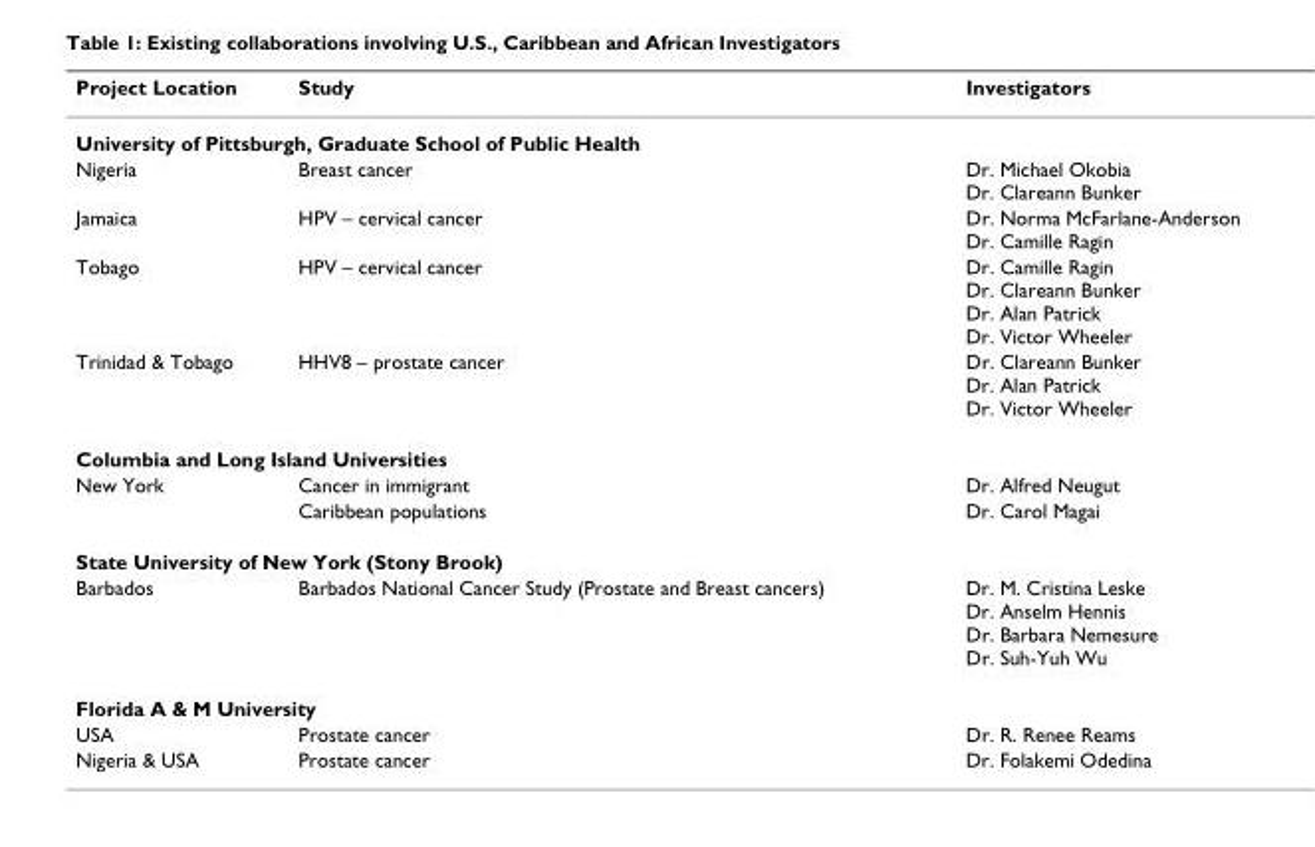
<table><thead><tr><td>Project Location</td><td>Study</td><td>Investigators</td></tr></thead><tbody><tr><td colspan="3">University of Pittsburgh, Graduate School of Public Health</td></tr><tr><td>Nigeria</td><td>Breast cancer</td><td>Dr. Michael Okobia Dr. Clareann Bunker</td></tr><tr><td>Jamaica</td><td>HPV – cervical cancer</td><td>Dr. Norma McFarlane-Anderson Dr. Camille Ragin</td></tr><tr><td>Tobago</td><td>HPV – cervical cancer</td><td>Dr. Camille Ragin Dr. Clareann Bunker Dr. Alan Patrick Dr. Victor Wheeler</td></tr><tr><td>Trinidad &amp; Tobago</td><td>HHV8 – prostate cancer</td><td>Dr. Clareann Bunker Dr. Alan Patrick Dr. Victor Wheeler</td></tr><tr><td colspan="3">Columbia and Long Island Universities</td></tr><tr><td rowspan="2">New York</td><td>Cancer in immigrant</td><td>Dr. Alfred Neugut</td></tr><tr><td>Caribbean populations</td><td>Dr. Carol Magai</td></tr><tr><td colspan="3">State University of New York (Stony Brook)</td></tr><tr><td>Barbados</td><td>Barbados National Cancer Study (Prostate and Breast cancers)</td><td>Dr. M. Cristina Leske Dr. Anselm Hennis Dr. Barbara Nemesure Dr. Suh-Yuh Wu</td></tr><tr><td colspan="3">Florida A &amp; M University</td></tr><tr><td>USA</td><td>Prostate cancer</td><td>Dr. R. Renee Reams</td></tr><tr><td>Nigeria &amp; USA</td><td>Prostate cancer</td><td>Dr. Folakemi Odedina</td></tr></tbody></table>